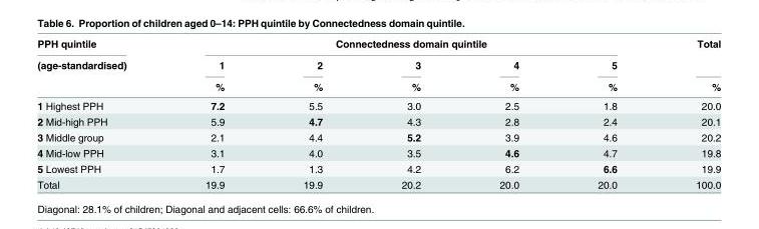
<table><thead><tr><td rowspan="3">PPH quintile (age-standardised)</td><td colspan="5">Connectedness domain quintile</td><td rowspan="3">Total %</td></tr><tr><td rowspan="2">1 %</td><td rowspan="2">2 %</td><td rowspan="2">3 %</td><td rowspan="2">4 %</td><td rowspan="2">5 %</td></tr><tr></tr></thead><tbody><tr><td>1 Highest PPH</td><td>7.2</td><td>5.5</td><td>3.0</td><td>2.5</td><td>1.8</td><td>20.0</td></tr><tr><td>2 Mid-high PPH</td><td>5.9</td><td>4.7</td><td>4.3</td><td>2.8</td><td>2.4</td><td>20.1</td></tr><tr><td>3 Middle group</td><td>2.1</td><td>4.4</td><td>5.2</td><td>3.9</td><td>4.6</td><td>20.2</td></tr><tr><td>4 Mid-low PPH</td><td>3.1</td><td>4.0</td><td>3.5</td><td>4.6</td><td>4.7</td><td>19.8</td></tr><tr><td>5 Lowest PPH</td><td>1.7</td><td>1.3</td><td>4.2</td><td>6.2</td><td>6.6</td><td>19.9</td></tr><tr><td>Total</td><td>19.9</td><td>19.9</td><td>20.2</td><td>20.0</td><td>20.0</td><td>100.0</td></tr></tbody></table>